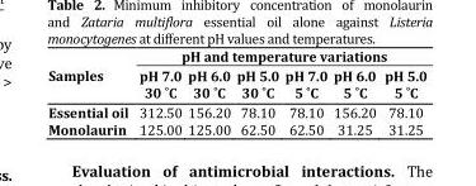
<table><thead><tr><td rowspan="2">Samples</td><td colspan="6">pH and temperature variations</td></tr><tr><td>pH 7.0 30 ˚C</td><td>pH 6.0 30 ˚C</td><td>pH 5.0 30 ˚C</td><td>pH 7.0 5 ˚C</td><td>pH 6.0 5 ˚C</td><td>pH 5.0 5 ˚C</td></tr></thead><tbody><tr><td>Essential oil</td><td>312.50</td><td>156.20</td><td>78.10</td><td>78.10</td><td>156.20</td><td>78.10</td></tr><tr><td>Monolaurin</td><td>125.00</td><td>125.00</td><td>62.50</td><td>62.50</td><td>31.25</td><td>31.25</td></tr></tbody></table>